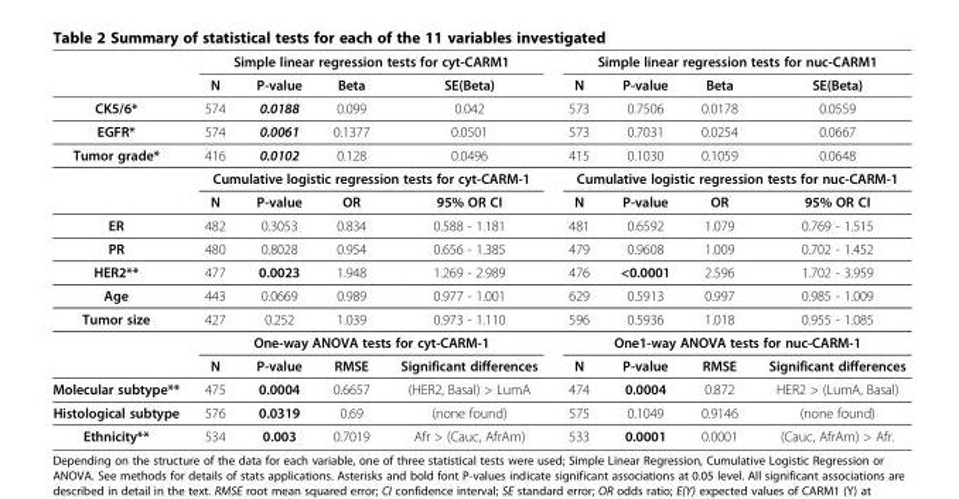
<table><thead><tr><td rowspan="2"></td><td colspan="4">Simple linear regression tests for cyt-CARM1</td><td colspan="4">Simple linear regression tests for nuc-CARM1</td></tr><tr><td>N</td><td>P-value</td><td>Beta</td><td>SE(Beta)</td><td>N</td><td>P-value</td><td>Beta</td><td>SE(Beta)</td></tr></thead><tbody><tr><td>CK5/6*</td><td>574</td><td>0.0188</td><td>0.099</td><td>0.042</td><td>573</td><td>0.7506</td><td>0.0178</td><td>0.0559</td></tr><tr><td>EGFR*</td><td>574</td><td>0.0061</td><td>0.1377</td><td>0.0501</td><td>573</td><td>0.7031</td><td>0.0254</td><td>0.0667</td></tr><tr><td rowspan="3">Tumor grade*</td><td>416</td><td>0.0102</td><td>0.128</td><td>0.0496</td><td>415</td><td>0.1030</td><td>0.1059</td><td>0.0648</td></tr><tr><td colspan="4">Cumulative logistic regression tests for cyt-CARM-1</td><td colspan="4">Cumulative logistic regression tests for nuc-CARM-1</td></tr><tr><td>N</td><td>P-value</td><td>OR</td><td>95% OR CI</td><td>N</td><td>P-value</td><td>OR</td><td>95% OR CI</td></tr><tr><td>ER</td><td>482</td><td>0.3053</td><td>0.834</td><td>0.588 - 1.181</td><td>481</td><td>0.6592</td><td>1.079</td><td>0.769 - 1.515</td></tr><tr><td>PR</td><td>480</td><td>0.8028</td><td>0.954</td><td>0.656 - 1.385</td><td>479</td><td>0.9608</td><td>1.009</td><td>0.702 - 1.452</td></tr><tr><td>HER2**</td><td>477</td><td>0.0023</td><td>1.948</td><td>1.269 - 2.989</td><td>476</td><td>&lt;0.0001</td><td>2.596</td><td>1.702 - 3.959</td></tr><tr><td>Age</td><td>443</td><td>0.0669</td><td>0.989</td><td>0.977 - 1.001</td><td>629</td><td>0.5913</td><td>0.997</td><td>0.985 - 1.009</td></tr><tr><td rowspan="3">Tumor size</td><td>427</td><td>0.252</td><td>1.039</td><td>0.973 - 1.110</td><td>596</td><td>0.5936</td><td>1.018</td><td>0.955 - 1.085</td></tr><tr><td colspan="4">One-way ANOVA tests for cyt-CARM-1</td><td colspan="4">One1-way ANOVA tests for nuc-CARM-1</td></tr><tr><td>N</td><td>P-value</td><td>RMSE</td><td>Significant differences</td><td>N</td><td>P-value</td><td>RMSE</td><td>Significant differences</td></tr><tr><td>Molecular subtype**</td><td>475</td><td>0.0004</td><td>0.6657</td><td>(HER2, Basal) &gt; LumA</td><td>474</td><td>0.0004</td><td>0.872</td><td>HER2 &gt; (LumA, Basal)</td></tr><tr><td>Histological subtype</td><td>576</td><td>0.0319</td><td>0.69</td><td>(none found)</td><td>575</td><td>0.1049</td><td>0.9146</td><td>(none found)</td></tr><tr><td>Ethnicity**</td><td>534</td><td>0.003</td><td>0.7019</td><td>Afr &gt; (Cauc, AfrAm)</td><td>533</td><td>0.0001</td><td>0.0001</td><td>(Cauc, AfrAm) &gt; Afr.</td></tr></tbody></table>